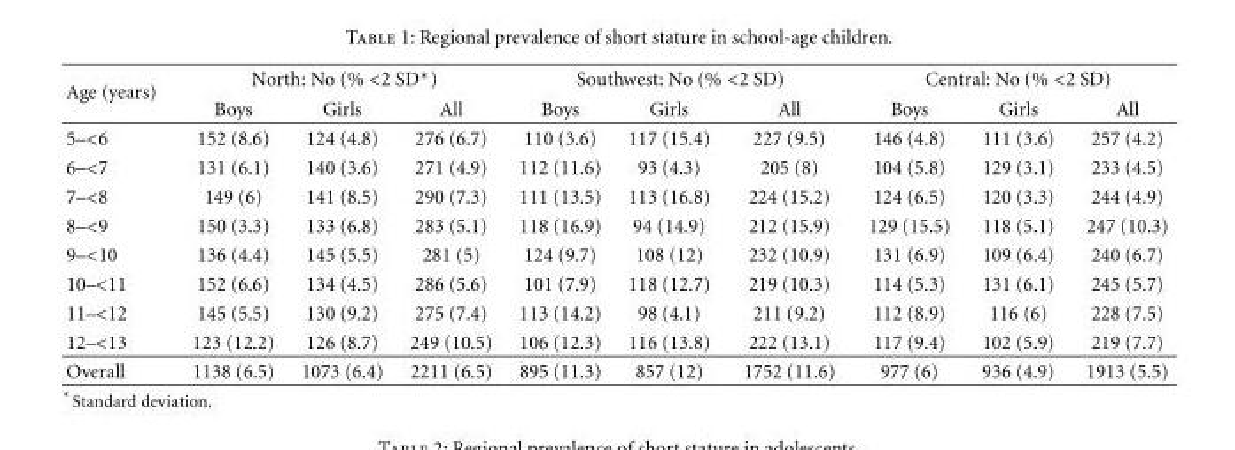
<table><thead><tr><td rowspan="2">Age (years)</td><td colspan="3">North: No (% &lt;2 SD∗)</td><td colspan="3">Southwest: No (% &lt;2 SD)</td><td colspan="3">Central: No (% &lt;2 SD)</td></tr><tr><td>Boys</td><td>Girls</td><td>All</td><td>Boys</td><td>Girls</td><td>All</td><td>Boys</td><td>Girls</td><td>All</td></tr></thead><tbody><tr><td>5–&lt;6</td><td>152 (8.6)</td><td>124 (4.8)</td><td>276 (6.7)</td><td>110 (3.6)</td><td>117 (15.4)</td><td>227 (9.5)</td><td>146 (4.8)</td><td>111 (3.6)</td><td>257 (4.2)</td></tr><tr><td>6–&lt;7</td><td>131 (6.1)</td><td>140 (3.6)</td><td>271 (4.9)</td><td>112 (11.6)</td><td>93 (4.3)</td><td>205 (8)</td><td>104 (5.8)</td><td>129 (3.1)</td><td>233 (4.5)</td></tr><tr><td>7–&lt;8</td><td>149 (6)</td><td>141 (8.5)</td><td>290 (7.3)</td><td>111 (13.5)</td><td>113 (16.8)</td><td>224 (15.2)</td><td>124 (6.5)</td><td>120 (3.3)</td><td>244 (4.9)</td></tr><tr><td>8–&lt;9</td><td>150 (3.3)</td><td>133 (6.8)</td><td>283 (5.1)</td><td>118 (16.9)</td><td>94 (14.9)</td><td>212 (15.9)</td><td>129 (15.5)</td><td>118 (5.1)</td><td>247 (10.3)</td></tr><tr><td>9–&lt;10</td><td>136 (4.4)</td><td>145 (5.5)</td><td>281 (5)</td><td>124 (9.7)</td><td>108 (12)</td><td>232 (10.9)</td><td>131 (6.9)</td><td>109 (6.4)</td><td>240 (6.7)</td></tr><tr><td>10–&lt;11</td><td>152 (6.6)</td><td>134 (4.5)</td><td>286 (5.6)</td><td>101 (7.9)</td><td>118 (12.7)</td><td>219 (10.3)</td><td>114 (5.3)</td><td>131 (6.1)</td><td>245 (5.7)</td></tr><tr><td>11–&lt;12</td><td>145 (5.5)</td><td>130 (9.2)</td><td>275 (7.4)</td><td>113 (14.2)</td><td>98 (4.1)</td><td>211 (9.2)</td><td>112 (8.9)</td><td>116 (6)</td><td>228 (7.5)</td></tr><tr><td>12–&lt;13</td><td>123 (12.2)</td><td>126 (8.7)</td><td>249 (10.5)</td><td>106 (12.3)</td><td>116 (13.8)</td><td>222 (13.1)</td><td>117 (9.4)</td><td>102 (5.9)</td><td>219 (7.7)</td></tr><tr><td>Overall</td><td>1138 (6.5)</td><td>1073 (6.4)</td><td>2211 (6.5)</td><td>895 (11.3)</td><td>857 (12)</td><td>1752 (11.6)</td><td>977 (6)</td><td>936 (4.9)</td><td>1913 (5.5)</td></tr></tbody></table>